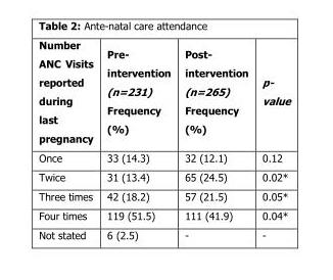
<table><thead><tr><td>Number ANC Visits reported during last pregnancy</td><td>Pre- intervention (n=231) Frequency (%)</td><td>Post- intervention (n=265) Frequency (%)</td><td>p- value</td></tr></thead><tbody><tr><td>Once</td><td>33 (14.3)</td><td>32 (12.1)</td><td>0.12</td></tr><tr><td>Twice</td><td>31 (13.4)</td><td>65 (24.5)</td><td>0.02*</td></tr><tr><td>Three times</td><td>42 (18.2)</td><td>57 (21.5)</td><td>0.05*</td></tr><tr><td>Four times</td><td>119 (51.5)</td><td>111 (41.9)</td><td>0.04*</td></tr><tr><td>Not stated</td><td>6 (2.5)</td><td>-</td><td>-</td></tr></tbody></table>